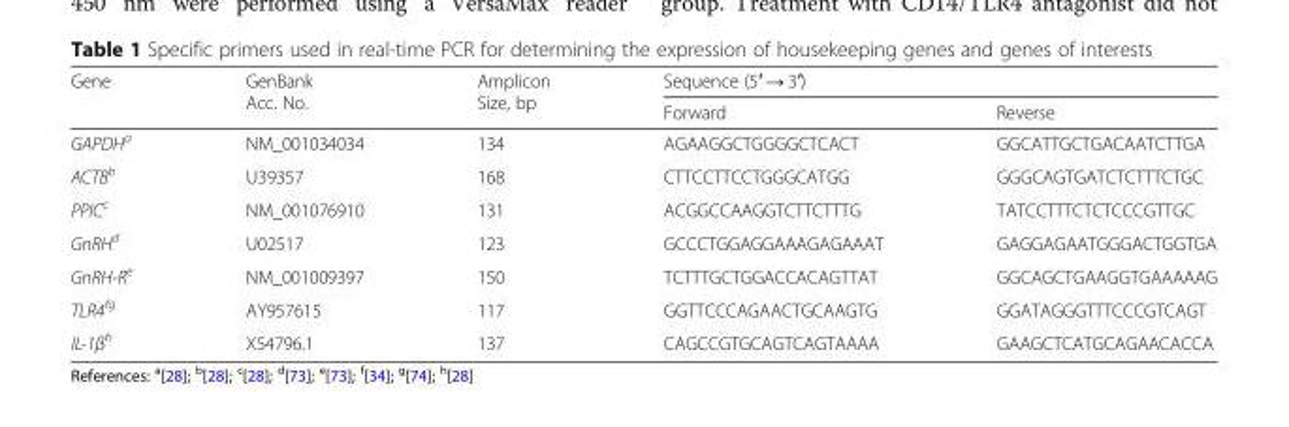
<table><thead><tr><td rowspan="2">Gene</td><td rowspan="2">GenBank Acc. No.</td><td rowspan="2">Amplicon Size, bp</td><td colspan="2">Sequence (5′ → 3′)</td></tr><tr><td>Forward</td><td>Reverse</td></tr></thead><tbody><tr><td>GAPDH<sup>a</sup></td><td>NM_001034034</td><td>134</td><td>AGAAGGCTGGGGCTCACT</td><td>GGCATTGCTGACAATCTTGA</td></tr><tr><td>ACTB<sup>b</sup></td><td>U39357</td><td>168</td><td>CTTCCTTCCTGGGCATGG</td><td>GGGCAGTGATCTCTTTCTGC</td></tr><tr><td>PPIC<sup>c</sup></td><td>NM_001076910</td><td>131</td><td>ACGGCCAAGGTCTTCTTTG</td><td>TATCCTTTCTCTCCCGTTGC</td></tr><tr><td>GnRH<sup>d</sup></td><td>U02517</td><td>123</td><td>GCCCTGGAGGAAAGAGAAAT</td><td>GAGGAGAATGGGACTGGTGA</td></tr><tr><td>GnRH-R<sup>e</sup></td><td>NM_001009397</td><td>150</td><td>TCTTTGCTGGACCACAGTTAT</td><td>GGCAGCTGAAGGTGAAAAAG</td></tr><tr><td>TLR4<sup>fg</sup></td><td>AY957615</td><td>117</td><td>GGTTCCCAGAACTGCAAGTG</td><td>GGATAGGGTTTCCCGTCAGT</td></tr><tr><td>IL-1β<sup>h</sup></td><td>X54796.1</td><td>137</td><td>CAGCCGTGCAGTCAGTAAAA</td><td>GAAGCTCATGCAGAACACCA</td></tr></tbody></table>